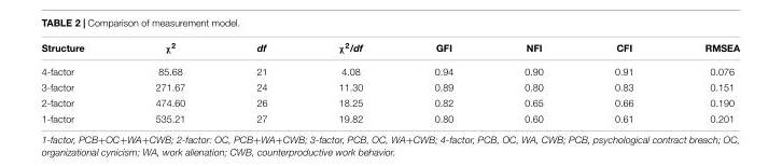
<table><thead><tr><td>Structure</td><td>χ<sup>2</sup></td><td>df</td><td>χ<sup>2</sup>/df</td><td>GFI</td><td>NFI</td><td>CFI</td><td>RMSEA</td></tr></thead><tbody><tr><td>4-factor</td><td>85.68</td><td>21</td><td>4.08</td><td>0.94</td><td>0.90</td><td>0.91</td><td>0.076</td></tr><tr><td>3-factor</td><td>271.67</td><td>24</td><td>11.30</td><td>0.89</td><td>0.80</td><td>0.83</td><td>0.151</td></tr><tr><td>2-factor</td><td>474.60</td><td>26</td><td>18.25</td><td>0.82</td><td>0.65</td><td>0.66</td><td>0.190</td></tr><tr><td>1-factor</td><td>535.21</td><td>27</td><td>19.82</td><td>0.80</td><td>0.60</td><td>0.61</td><td>0.201</td></tr></tbody></table>